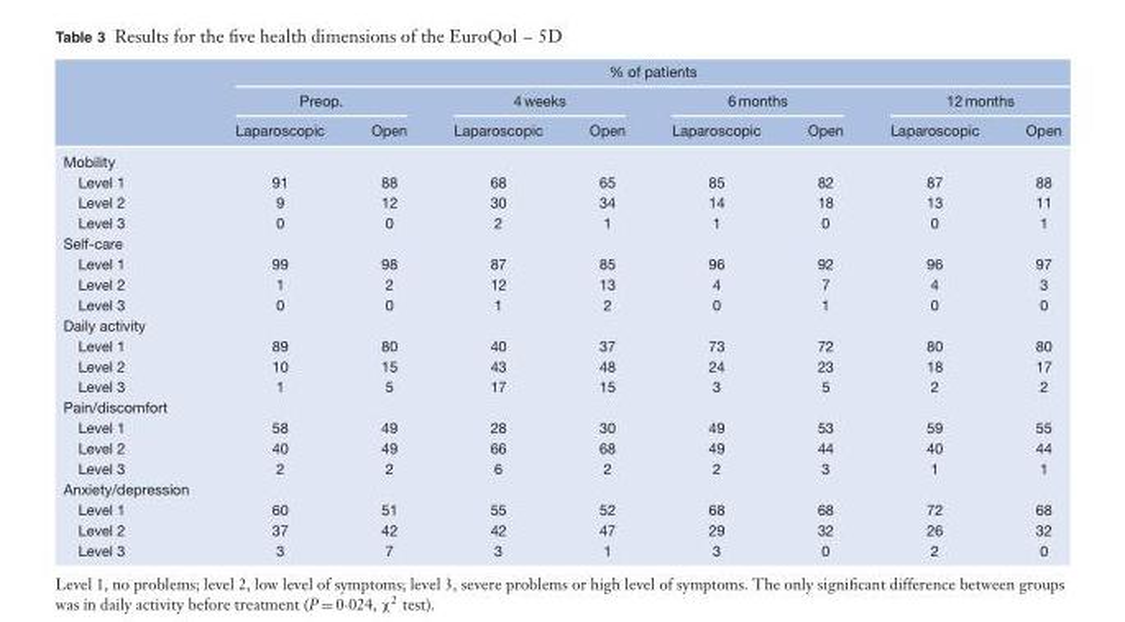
<table><thead><tr><td rowspan="3"></td><td colspan="8">% of patients</td></tr><tr><td colspan="2">Preop.</td><td colspan="2">4 weeks</td><td colspan="2">6 months</td><td colspan="2">12 months</td></tr><tr><td>Laparoscopic</td><td>Open</td><td>Laparoscopic</td><td>Open</td><td>Laparoscopic</td><td>Open</td><td>Laparoscopic</td><td>Open</td></tr></thead><tbody><tr><td colspan="9">Mobility</td></tr><tr><td>Level 1</td><td>91</td><td>88</td><td>68</td><td>65</td><td>85</td><td>82</td><td>87</td><td>88</td></tr><tr><td>Level 2</td><td>9</td><td>12</td><td>30</td><td>34</td><td>14</td><td>18</td><td>13</td><td>11</td></tr><tr><td>Level 3</td><td>0</td><td>0</td><td>2</td><td>1</td><td>1</td><td>0</td><td>0</td><td>1</td></tr><tr><td colspan="9">Self-care</td></tr><tr><td>Level 1</td><td>99</td><td>98</td><td>87</td><td>85</td><td>96</td><td>92</td><td>96</td><td>97</td></tr><tr><td>Level 2</td><td>1</td><td>2</td><td>12</td><td>13</td><td>4</td><td>7</td><td>4</td><td>3</td></tr><tr><td>Level 3</td><td>0</td><td>0</td><td>1</td><td>2</td><td>0</td><td>1</td><td>0</td><td>0</td></tr><tr><td colspan="9">Daily activity</td></tr><tr><td>Level 1</td><td>89</td><td>80</td><td>40</td><td>37</td><td>73</td><td>72</td><td>80</td><td>80</td></tr><tr><td>Level 2</td><td>10</td><td>15</td><td>43</td><td>48</td><td>24</td><td>23</td><td>18</td><td>17</td></tr><tr><td>Level 3</td><td>1</td><td>5</td><td>17</td><td>15</td><td>3</td><td>5</td><td>2</td><td>2</td></tr><tr><td colspan="9">Pain/discomfort</td></tr><tr><td>Level 1</td><td>58</td><td>49</td><td>28</td><td>30</td><td>49</td><td>53</td><td>59</td><td>55</td></tr><tr><td>Level 2</td><td>40</td><td>49</td><td>66</td><td>68</td><td>49</td><td>44</td><td>40</td><td>44</td></tr><tr><td>Level 3</td><td>2</td><td>2</td><td>6</td><td>2</td><td>2</td><td>3</td><td>1</td><td>1</td></tr><tr><td colspan="9">Anxiety/depression</td></tr><tr><td>Level 1</td><td>60</td><td>51</td><td>55</td><td>52</td><td>68</td><td>68</td><td>72</td><td>68</td></tr><tr><td>Level 2</td><td>37</td><td>42</td><td>42</td><td>47</td><td>29</td><td>32</td><td>26</td><td>32</td></tr><tr><td>Level 3</td><td>3</td><td>7</td><td>3</td><td>1</td><td>3</td><td>0</td><td>2</td><td>0</td></tr></tbody></table>